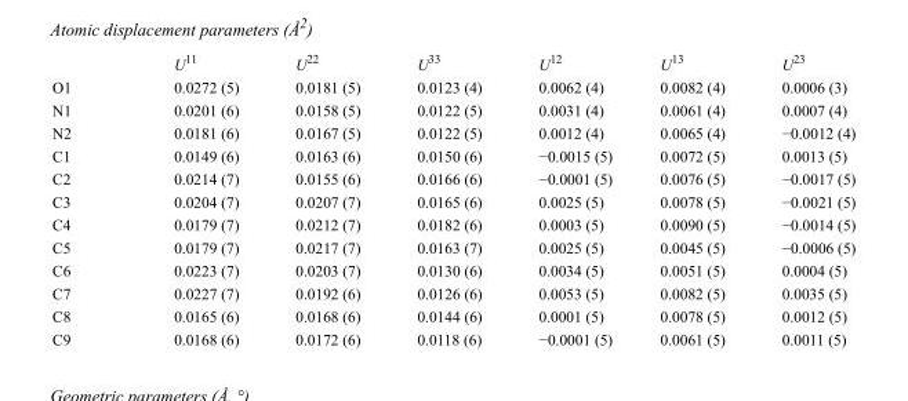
<table><thead><tr><td></td><td>U<sup>11</sup></td><td>U<sup>22</sup></td><td>U<sup>33</sup></td><td>U<sup>12</sup></td><td>U<sup>13</sup></td><td>U<sup>23</sup></td></tr></thead><tbody><tr><td>O1</td><td>0.0272 (5)</td><td>0.0181 (5)</td><td>0.0123 (4)</td><td>0.0062 (4)</td><td>0.0082 (4)</td><td>0.0006 (3)</td></tr><tr><td>N1</td><td>0.0201 (6)</td><td>0.0158 (5)</td><td>0.0122 (5)</td><td>0.0031 (4)</td><td>0.0061 (4)</td><td>0.0007 (4)</td></tr><tr><td>N2</td><td>0.0181 (6)</td><td>0.0167 (5)</td><td>0.0122 (5)</td><td>0.0012 (4)</td><td>0.0065 (4)</td><td>−0.0012 (4)</td></tr><tr><td>C1</td><td>0.0149 (6)</td><td>0.0163 (6)</td><td>0.0150 (6)</td><td>−0.0015 (5)</td><td>0.0072 (5)</td><td>0.0013 (5)</td></tr><tr><td>C2</td><td>0.0214 (7)</td><td>0.0155 (6)</td><td>0.0166 (6)</td><td>−0.0001 (5)</td><td>0.0076 (5)</td><td>−0.0017 (5)</td></tr><tr><td>C3</td><td>0.0204 (7)</td><td>0.0207 (7)</td><td>0.0165 (6)</td><td>0.0025 (5)</td><td>0.0078 (5)</td><td>−0.0021 (5)</td></tr><tr><td>C4</td><td>0.0179 (7)</td><td>0.0212 (7)</td><td>0.0182 (6)</td><td>0.0003 (5)</td><td>0.0090 (5)</td><td>−0.0014 (5)</td></tr><tr><td>C5</td><td>0.0179 (7)</td><td>0.0217 (7)</td><td>0.0163 (7)</td><td>0.0025 (5)</td><td>0.0045 (5)</td><td>−0.0006 (5)</td></tr><tr><td>C6</td><td>0.0223 (7)</td><td>0.0203 (7)</td><td>0.0130 (6)</td><td>0.0034 (5)</td><td>0.0051 (5)</td><td>0.0004 (5)</td></tr><tr><td>C7</td><td>0.0227 (7)</td><td>0.0192 (6)</td><td>0.0126 (6)</td><td>0.0053 (5)</td><td>0.0082 (5)</td><td>0.0035 (5)</td></tr><tr><td>C8</td><td>0.0165 (6)</td><td>0.0168 (6)</td><td>0.0144 (6)</td><td>0.0001 (5)</td><td>0.0078 (5)</td><td>0.0012 (5)</td></tr><tr><td>C9</td><td>0.0168 (6)</td><td>0.0172 (6)</td><td>0.0118 (6)</td><td>−0.0001 (5)</td><td>0.0061 (5)</td><td>0.0011 (5)</td></tr></tbody></table>